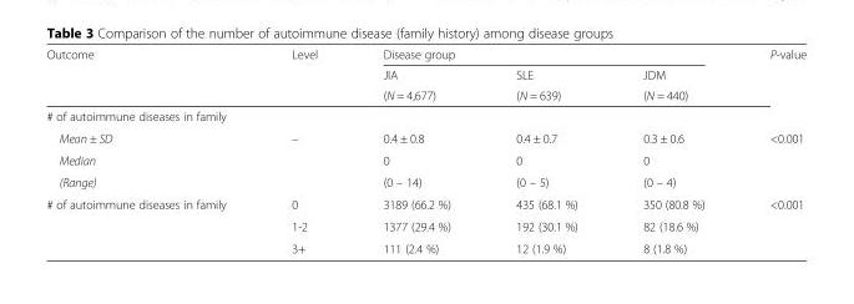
<table><thead><tr><td rowspan="3">Outcome</td><td rowspan="3">Level</td><td colspan="3">Disease group</td><td rowspan="3">P-value</td></tr><tr><td rowspan="2">JIA (N = 4,677)</td><td rowspan="2">SLE (N = 639)</td><td rowspan="2">JDM (N = 440)</td></tr><tr></tr></thead><tbody><tr><td colspan="6"># of autoimmune diseases in family</td></tr><tr><td>Mean ± SD</td><td>–</td><td>0.4 ± 0.8</td><td>0.4 ± 0.7</td><td>0.3 ± 0.6</td><td>&lt;0.001</td></tr><tr><td>Median</td><td></td><td>0</td><td>0</td><td>0</td><td></td></tr><tr><td>(Range)</td><td></td><td>(0 – 14)</td><td>(0 – 5)</td><td>(0 – 4)</td><td></td></tr><tr><td rowspan="3"># of autoimmune diseases in family</td><td>0</td><td>3189 (66.2 %)</td><td>435 (68.1 %)</td><td>350 (80.8 %)</td><td>&lt;0.001</td></tr><tr><td>1-2</td><td>1377 (29.4 %)</td><td>192 (30.1 %)</td><td>82 (18.6 %)</td><td></td></tr><tr><td>3+</td><td>111 (2.4 %)</td><td>12 (1.9 %)</td><td>8 (1.8 %)</td><td></td></tr></tbody></table>